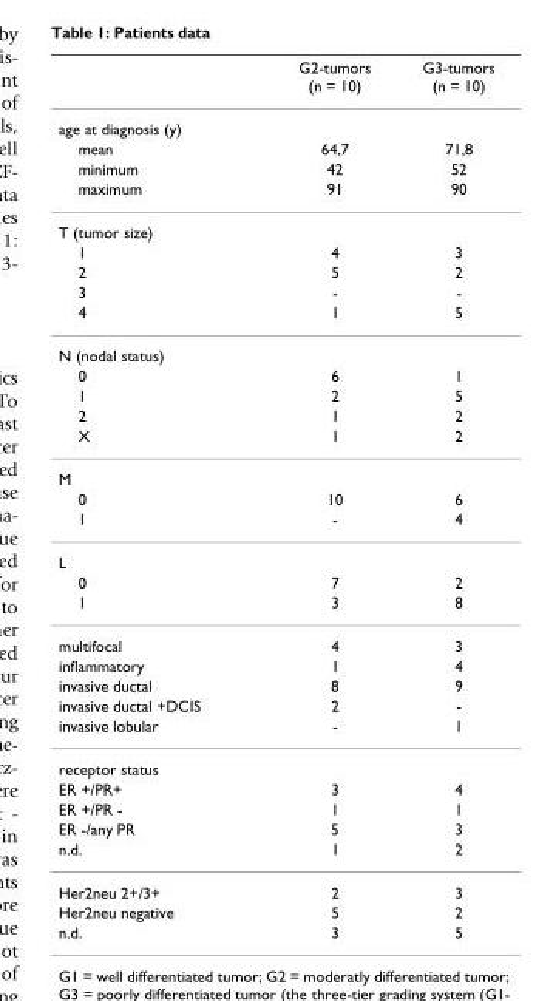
<table><thead><tr><td></td><td>G2-tumors (n = 10)</td><td>G3-tumors (n = 10)</td></tr></thead><tbody><tr><td colspan="3">age at diagnosis (y)</td></tr><tr><td>mean</td><td>64,7</td><td>71,8</td></tr><tr><td>minimum</td><td>42</td><td>52</td></tr><tr><td>maximum</td><td>91</td><td>90</td></tr><tr><td colspan="3">T (tumor size)</td></tr><tr><td>1</td><td>4</td><td>3</td></tr><tr><td>2</td><td>5</td><td>2</td></tr><tr><td>3</td><td>-</td><td>-</td></tr><tr><td>4</td><td>1</td><td>5</td></tr><tr><td colspan="3">N (nodal status)</td></tr><tr><td>0</td><td>6</td><td>1</td></tr><tr><td>1</td><td>2</td><td>5</td></tr><tr><td>2</td><td>1</td><td>2</td></tr><tr><td>X</td><td>1</td><td>2</td></tr><tr><td colspan="3">M</td></tr><tr><td>0</td><td>10</td><td>6</td></tr><tr><td>1</td><td>-</td><td>4</td></tr><tr><td colspan="3">L</td></tr><tr><td>0</td><td>7</td><td>2</td></tr><tr><td>1</td><td>3</td><td>8</td></tr><tr><td>multifocal</td><td>4</td><td>3</td></tr><tr><td>inflammatory</td><td>1</td><td>4</td></tr><tr><td>invasive ductal</td><td>8</td><td>9</td></tr><tr><td>invasive ductal +DCIS</td><td>2</td><td>-</td></tr><tr><td>invasive lobular</td><td>-</td><td>1</td></tr><tr><td colspan="3">receptor status</td></tr><tr><td>ER +/PR+</td><td>3</td><td>4</td></tr><tr><td>ER +/PR -</td><td>1</td><td>1</td></tr><tr><td>ER -/any PR</td><td>5</td><td>3</td></tr><tr><td>n.d.</td><td>1</td><td>2</td></tr><tr><td>Her2neu 2+/3+</td><td>2</td><td>3</td></tr><tr><td>Her2neu negative</td><td>5</td><td>2</td></tr><tr><td>n.d.</td><td>3</td><td>5</td></tr></tbody></table>